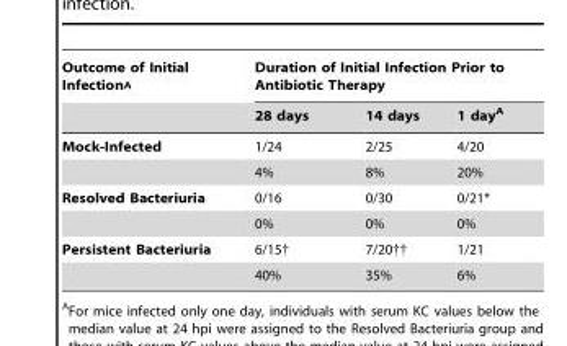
<table><thead><tr><td rowspan="2">Outcome of Initial Infection<sup>A</sup></td><td colspan="3">Duration of Initial Infection Prior to Antibiotic Therapy</td></tr><tr><td>28 days</td><td>14 days</td><td>1 day<sup>A</sup></td></tr></thead><tbody><tr><td rowspan="2">Mock-Infected</td><td>1/24</td><td>2/25</td><td>4/20</td></tr><tr><td>4%</td><td>8%</td><td>20%</td></tr><tr><td rowspan="2">Resolved Bacteriuria</td><td>0/16</td><td>0/30</td><td>0/21*</td></tr><tr><td>0%</td><td>0%</td><td>0%</td></tr><tr><td rowspan="2">Persistent Bacteriuria</td><td>6/15†</td><td>7/20††</td><td>1/21</td></tr><tr><td>40%</td><td>35%</td><td>6%</td></tr></tbody></table>